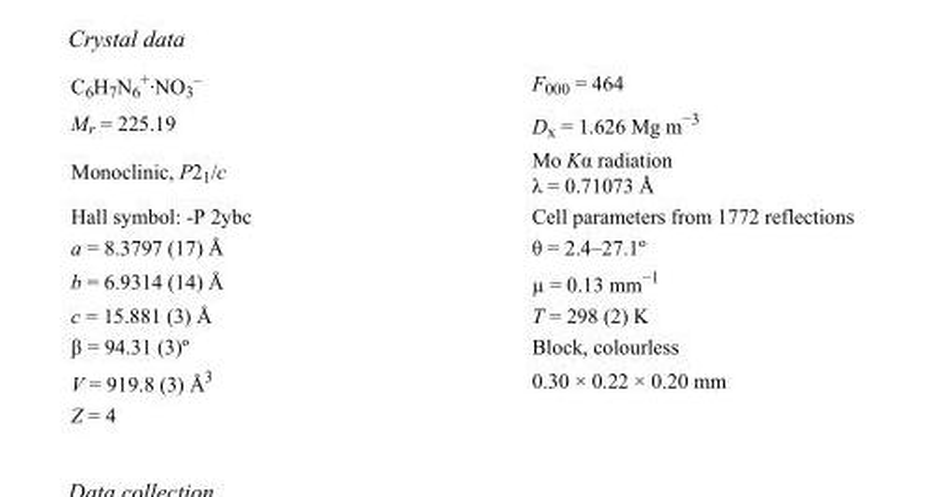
<table><tbody><tr><td>C<sub>6</sub>H<sub>7</sub>N<sub>6</sub> <sup>+</sup>·NO<sub>3</sub> <sup>–</sup></td><td>F000 = 464</td></tr><tr><td>M<sub>r</sub> = 225.19</td><td>D<sub>x</sub> = 1.626 Mg m<sup>−3</sup></td></tr><tr><td>Monoclinic, P2<sub>1</sub>/c</td><td>Mo Kα radiation λ = 0.71073 Å</td></tr><tr><td>Hall symbol: -P 2ybc</td><td>Cell parameters from 1772 reflections</td></tr><tr><td>a = 8.3797 (17) Å</td><td>θ = 2.4–27.1º</td></tr><tr><td>b = 6.9314 (14) Å</td><td>µ = 0.13 mm<sup>−1</sup></td></tr><tr><td>c = 15.881 (3) Å</td><td>T = 298 (2) K</td></tr><tr><td>β = 94.31 (3)º</td><td>Block, colourless</td></tr><tr><td>V = 919.8 (3) Å<sup>3</sup></td><td>0.30 × 0.22 × 0.20 mm</td></tr><tr><td>Z = 4</td><td></td></tr></tbody></table>